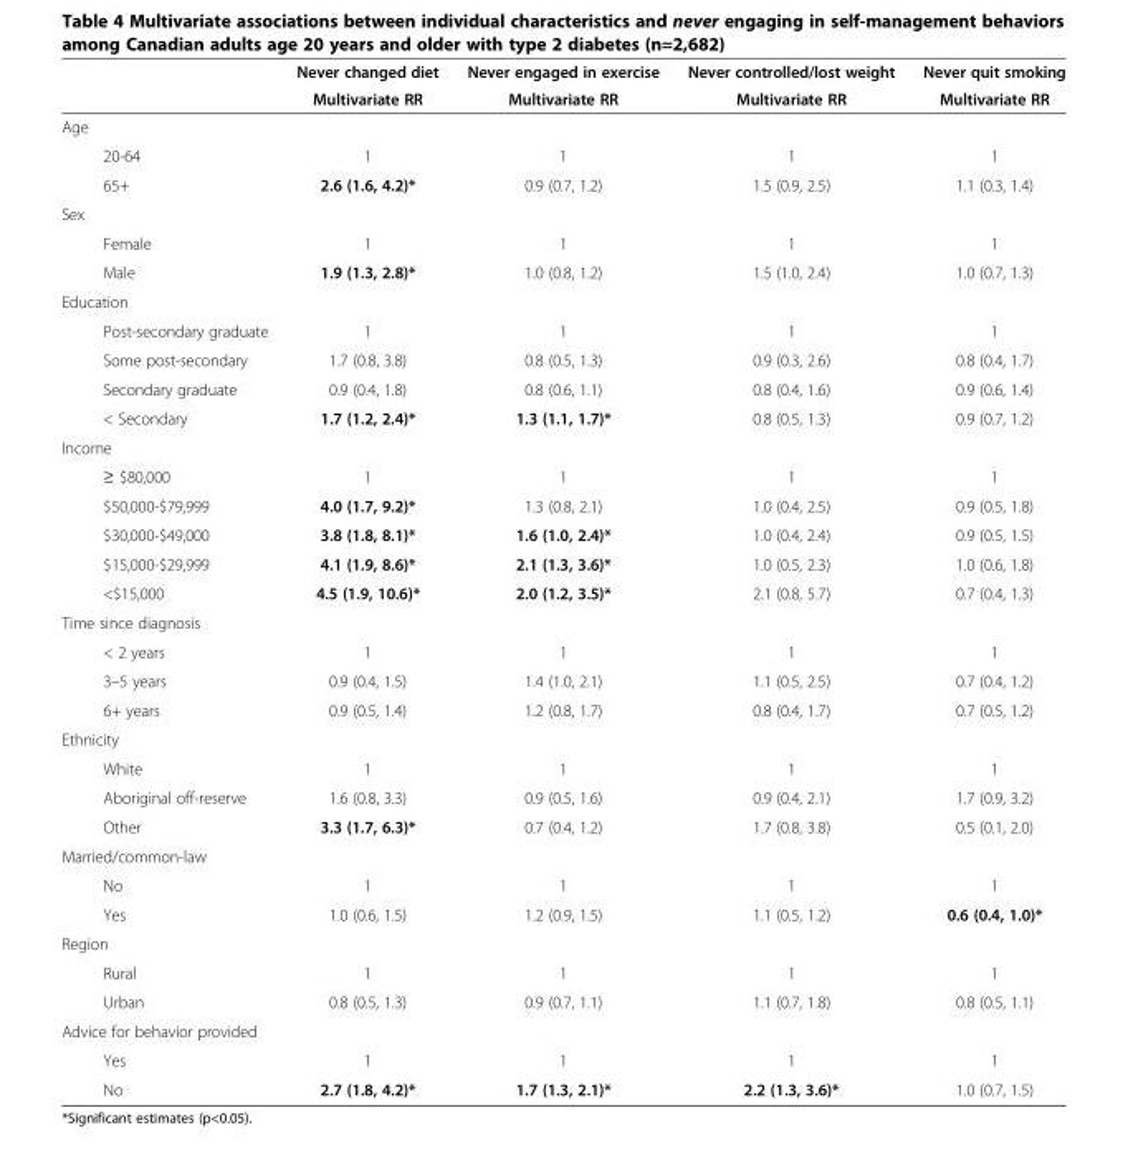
<table><thead><tr><td rowspan="2"></td><td rowspan="2">Never changed diet Multivariate RR</td><td rowspan="2">Never engaged in exercise Multivariate RR</td><td rowspan="2">Never controlled/lost weight Multivariate RR</td><td rowspan="2">Never quit smoking Multivariate RR</td></tr><tr></tr></thead><tbody><tr><td colspan="5">Age</td></tr><tr><td>20-64</td><td>1</td><td>1</td><td>1</td><td>1</td></tr><tr><td>65+</td><td>2.6 (1.6, 4.2)*</td><td>0.9 (0.7, 1.2)</td><td>1.5 (0.9, 2.5)</td><td>1.1 (0.3, 1.4)</td></tr><tr><td colspan="5">Sex</td></tr><tr><td>Female</td><td>1</td><td>1</td><td>1</td><td>1</td></tr><tr><td>Male</td><td>1.9 (1.3, 2.8)*</td><td>1.0 (0.8, 1.2)</td><td>1.5 (1.0, 2.4)</td><td>1.0 (0.7, 1.3)</td></tr><tr><td colspan="5">Education</td></tr><tr><td>Post-secondary graduate</td><td>1</td><td>1</td><td>1</td><td>1</td></tr><tr><td>Some post-secondary</td><td>1.7 (0.8, 3.8)</td><td>0.8 (0.5, 1.3)</td><td>0.9 (0.3, 2.6)</td><td>0.8 (0.4, 1.7)</td></tr><tr><td>Secondary graduate</td><td>0.9 (0.4, 1.8)</td><td>0.8 (0.6, 1.1)</td><td>0.8 (0.4, 1.6)</td><td>0.9 (0.6, 1.4)</td></tr><tr><td>&lt; Secondary</td><td>1.7 (1.2, 2.4)*</td><td>1.3 (1.1, 1.7)*</td><td>0.8 (0.5, 1.3)</td><td>0.9 (0.7, 1.2)</td></tr><tr><td colspan="5">Income</td></tr><tr><td>≥ $80,000</td><td>1</td><td>1</td><td>1</td><td>1</td></tr><tr><td>$50,000-$79,999</td><td>4.0 (1.7, 9.2)*</td><td>1.3 (0.8, 2.1)</td><td>1.0 (0.4, 2.5)</td><td>0.9 (0.5, 1.8)</td></tr><tr><td>$30,000-$49,000</td><td>3.8 (1.8, 8.1)*</td><td>1.6 (1.0, 2.4)*</td><td>1.0 (0.4, 2.4)</td><td>0.9 (0.5, 1.5)</td></tr><tr><td>$15,000-$29,999</td><td>4.1 (1.9, 8.6)*</td><td>2.1 (1.3, 3.6)*</td><td>1.0 (0.5, 2.3)</td><td>1.0 (0.6, 1.8)</td></tr><tr><td>&lt;$15,000</td><td>4.5 (1.9, 10.6)*</td><td>2.0 (1.2, 3.5)*</td><td>2.1 (0.8, 5.7)</td><td>0.7 (0.4, 1.3)</td></tr><tr><td colspan="5">Time since diagnosis</td></tr><tr><td>&lt; 2 years</td><td>1</td><td>1</td><td>1</td><td>1</td></tr><tr><td>3–5 years</td><td>0.9 (0.4, 1.5)</td><td>1.4 (1.0, 2.1)</td><td>1.1 (0.5, 2.5)</td><td>0.7 (0.4, 1.2)</td></tr><tr><td>6+ years</td><td>0.9 (0.5, 1.4)</td><td>1.2 (0.8, 1.7)</td><td>0.8 (0.4, 1.7)</td><td>0.7 (0.5, 1.2)</td></tr><tr><td colspan="5">Ethnicity</td></tr><tr><td>White</td><td>1</td><td>1</td><td>1</td><td>1</td></tr><tr><td>Aboriginal off-reserve</td><td>1.6 (0.8, 3.3)</td><td>0.9 (0.5, 1.6)</td><td>0.9 (0.4, 2.1)</td><td>1.7 (0.9, 3.2)</td></tr><tr><td>Other</td><td>3.3 (1.7, 6.3)*</td><td>0.7 (0.4, 1.2)</td><td>1.7 (0.8, 3.8)</td><td>0.5 (0.1, 2.0)</td></tr><tr><td colspan="5">Married/common-law</td></tr><tr><td>No</td><td>1</td><td>1</td><td>1</td><td>1</td></tr><tr><td>Yes</td><td>1.0 (0.6, 1.5)</td><td>1.2 (0.9, 1.5)</td><td>1.1 (0.5, 1.2)</td><td>0.6 (0.4, 1.0)*</td></tr><tr><td colspan="5">Region</td></tr><tr><td>Rural</td><td>1</td><td>1</td><td>1</td><td>1</td></tr><tr><td>Urban</td><td>0.8 (0.5, 1.3)</td><td>0.9 (0.7, 1.1)</td><td>1.1 (0.7, 1.8)</td><td>0.8 (0.5, 1.1)</td></tr><tr><td colspan="5">Advice for behavior provided</td></tr><tr><td>Yes</td><td>1</td><td>1</td><td>1</td><td>1</td></tr><tr><td>No</td><td>2.7 (1.8, 4.2)*</td><td>1.7 (1.3, 2.1)*</td><td>2.2 (1.3, 3.6)*</td><td>1.0 (0.7, 1.5)</td></tr></tbody></table>